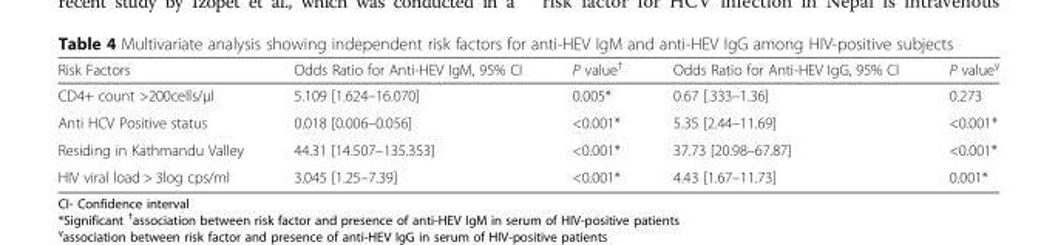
<table><thead><tr><td>Risk Factors</td><td>Odds Ratio for Anti-HEV IgM, 95% CI</td><td>P value<sup>†</sup></td><td>Odds Ratio for Anti-HEV IgG, 95% CI</td><td>P value<sup>γ</sup></td></tr></thead><tbody><tr><td>CD4+ count &gt;200cells/μl</td><td>5.109 [1.624–16.070]</td><td>0.005*</td><td>0.67 [.333–1.36]</td><td>0.273</td></tr><tr><td>Anti HCV Positive status</td><td>0.018 [0.006–0.056]</td><td>&lt;0.001*</td><td>5.35 [2.44–11.69]</td><td>&lt;0.001*</td></tr><tr><td>Residing in Kathmandu Valley</td><td>44.31 [14.507–135.353]</td><td>&lt;0.001*</td><td>37.73 [20.98–67.87]</td><td>&lt;0.001*</td></tr><tr><td>HIV viral load &gt; 3log cps/ml</td><td>3.045 [1.25–7.39]</td><td>&lt;0.001*</td><td>4.43 [1.67–11.73]</td><td>0.001*</td></tr></tbody></table>